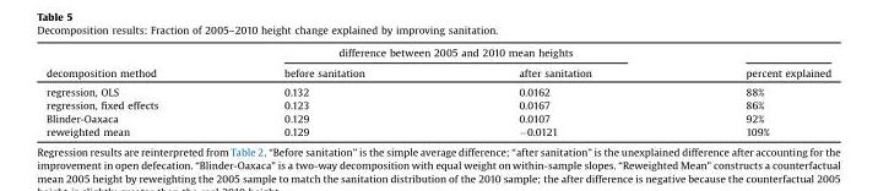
<table><thead><tr><td rowspan="2">decomposition method</td><td colspan="2">difference between 2005 and 2010 mean heights</td><td rowspan="2">percent explained</td></tr><tr><td>before sanitation</td><td>after sanitation</td></tr></thead><tbody><tr><td>regression, OLS</td><td>0.132</td><td>0.0162</td><td>88%</td></tr><tr><td>regression, fixed effects</td><td>0.123</td><td>0.0167</td><td>86%</td></tr><tr><td>Blinder-Oaxaca</td><td>0.129</td><td>0.0107</td><td>92%</td></tr><tr><td>reweighted mean</td><td>0.129</td><td>−0.0121</td><td>109%</td></tr></tbody></table>